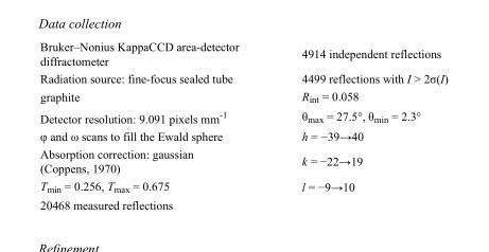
<table><tbody><tr><td>Bruker–Nonius KappaCCD area-detector diffractometer</td><td>4914 independent reflections</td></tr><tr><td>Radiation source: fine-focus sealed tube</td><td>4499 reflections with I &gt; 2σ(I)</td></tr><tr><td>graphite</td><td>R<sub>int</sub> = 0.058</td></tr><tr><td>Detector resolution: 9.091 pixels mm<sup>-1</sup></td><td>θ<sub>max</sub> = 27.5°, θ<sub>min</sub> = 2.3°</td></tr><tr><td>φ and ω scans to fill the Ewald sphere</td><td>h = −39→40</td></tr><tr><td>Absorption correction: gaussian (Coppens, 1970)</td><td>k = −22→19</td></tr><tr><td>T<sub>min</sub> = 0.256, T<sub>max</sub> = 0.675</td><td>l = −9→10</td></tr><tr><td>20468 measured reflections</td><td></td></tr></tbody></table>